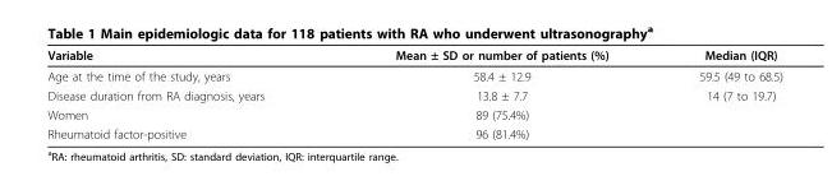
<table><thead><tr><td>Variable</td><td>Mean ± SD or number of patients (%)</td><td>Median (IQR)</td></tr></thead><tbody><tr><td>Age at the time of the study, years</td><td>58.4 ± 12.9</td><td>59.5 (49 to 68.5)</td></tr><tr><td>Disease duration from RA diagnosis, years</td><td>13.8 ± 7.7</td><td>14 (7 to 19.7)</td></tr><tr><td>Women</td><td>89 (75.4%)</td><td></td></tr><tr><td>Rheumatoid factor-positive</td><td>96 (81.4%)</td><td></td></tr></tbody></table>